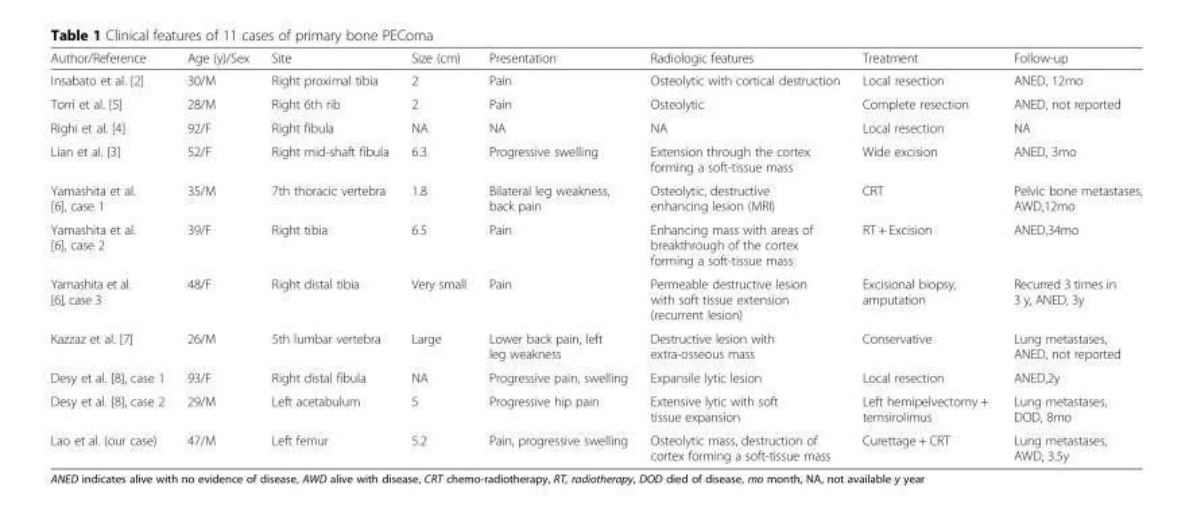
<table><thead><tr><td>Author/Reference</td><td>Age (y)/Sex</td><td>Site</td><td>Size (cm)</td><td>Presentation</td><td>Radiologic features</td><td>Treatment</td><td>Follow-up</td></tr></thead><tbody><tr><td>Insabato et al. [2]</td><td>30/M</td><td>Right proximal tibia</td><td>2</td><td>Pain</td><td>Osteolytic with cortical destruction</td><td>Local resection</td><td>ANED, 12mo</td></tr><tr><td>Torri et al. [5]</td><td>28/M</td><td>Right 6th rib</td><td>2</td><td>Pain</td><td>Osteolytic</td><td>Complete resection</td><td>ANED, not reported</td></tr><tr><td>Righi et al. [4]</td><td>92/F</td><td>Right fibula</td><td>NA</td><td>NA</td><td>NA</td><td>Local resection</td><td>NA</td></tr><tr><td>Lian et al. [3]</td><td>52/F</td><td>Right mid-shaft fibula</td><td>6.3</td><td>Progressive swelling</td><td>Extension through the cortex forming a soft-tissue mass</td><td>Wide excision</td><td>ANED, 3mo</td></tr><tr><td>Yamashita et al. [6], case 1</td><td>35/M</td><td>7th thoracic vertebra</td><td>1.8</td><td>Bilateral leg weakness, back pain</td><td>Osteolytic, destructive enhancing lesion (MRI)</td><td>CRT</td><td>Pelvic bone metastases, AWD,12mo</td></tr><tr><td>Yamashita et al. [6], case 2</td><td>39/F</td><td>Right tibia</td><td>6.5</td><td>Pain</td><td>Enhancing mass with areas of breakthrough of the cortex forming a soft-tissue mass</td><td>RT + Excision</td><td>ANED,34mo</td></tr><tr><td>Yamashita et al. [6], case 3</td><td>48/F</td><td>Right distal tibia</td><td>Very small</td><td>Pain</td><td>Permeable destructive lesion with soft tissue extension (recurrent lesion)</td><td>Excisional biopsy, amputation</td><td>Recurred 3 times in 3 y, ANED, 3y</td></tr><tr><td>Kazzaz et al. [7]</td><td>26/M</td><td>5th lumbar vertebra</td><td>Large</td><td>Lower back pain, left leg weakness</td><td>Destructive lesion with extra-osseous mass</td><td>Conservative</td><td>Lung metastases, ANED, not reported</td></tr><tr><td>Desy et al. [8], case 1</td><td>93/F</td><td>Right distal fibula</td><td>NA</td><td>Progressive pain, swelling</td><td>Expansile lytic lesion</td><td>Local resection</td><td>ANED,2y</td></tr><tr><td>Desy et al. [8], case 2</td><td>29/M</td><td>Left acetabulum</td><td>5</td><td>Progressive hip pain</td><td>Extensive lytic with soft tissue expansion</td><td>Left hemipelvectomy + temsirolimus</td><td>Lung metastases, DOD, 8mo</td></tr><tr><td>Lao et al. (our case)</td><td>47/M</td><td>Left femur</td><td>5.2</td><td>Pain, progressive swelling</td><td>Osteolytic mass, destruction of cortex forming a soft-tissue mass</td><td>Curettage + CRT</td><td>Lung metastases, AWD, 3.5y</td></tr></tbody></table>